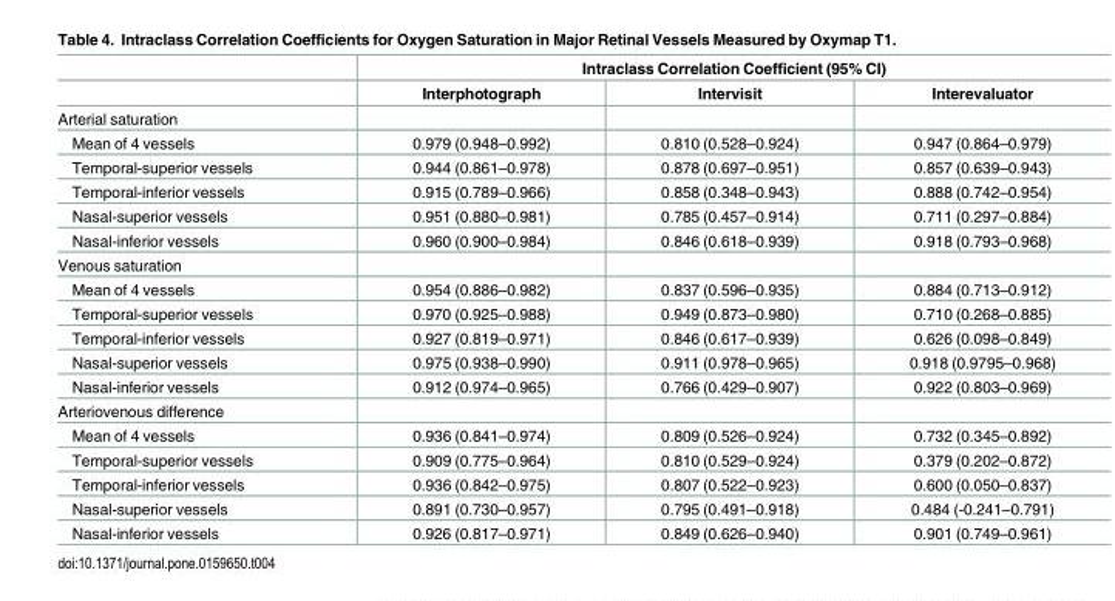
<table><thead><tr><td rowspan="2"></td><td colspan="3">Intraclass Correlation Coefficient (95% CI)</td></tr><tr><td>Interphotograph</td><td>Intervisit</td><td>Interevaluator</td></tr></thead><tbody><tr><td colspan="4">Arterial saturation</td></tr><tr><td>Mean of 4 vessels</td><td>0.979 (0.948–0.992)</td><td>0.810 (0.528–0.924)</td><td>0.947 (0.864–0.979)</td></tr><tr><td>Temporal-superior vessels</td><td>0.944 (0.861–0.978)</td><td>0.878 (0.697–0.951)</td><td>0.857 (0.639–0.943)</td></tr><tr><td>Temporal-inferior vessels</td><td>0.915 (0.789–0.966)</td><td>0.858 (0.348–0.943)</td><td>0.888 (0.742–0.954)</td></tr><tr><td>Nasal-superior vessels</td><td>0.951 (0.880–0.981)</td><td>0.785 (0.457–0.914)</td><td>0.711 (0.297–0.884)</td></tr><tr><td>Nasal-inferior vessels</td><td>0.960 (0.900–0.984)</td><td>0.846 (0.618–0.939)</td><td>0.918 (0.793–0.968)</td></tr><tr><td colspan="4">Venous saturation</td></tr><tr><td>Mean of 4 vessels</td><td>0.954 (0.886–0.982)</td><td>0.837 (0.596–0.935)</td><td>0.884 (0.713–0.912)</td></tr><tr><td>Temporal-superior vessels</td><td>0.970 (0.925–0.988)</td><td>0.949 (0.873–0.980)</td><td>0.710 (0.268–0.885)</td></tr><tr><td>Temporal-inferior vessels</td><td>0.927 (0.819–0.971)</td><td>0.846 (0.617–0.939)</td><td>0.626 (0.098–0.849)</td></tr><tr><td>Nasal-superior vessels</td><td>0.975 (0.938–0.990)</td><td>0.911 (0.978–0.965)</td><td>0.918 (0.9795–0.968)</td></tr><tr><td>Nasal-inferior vessels</td><td>0.912 (0.974–0.965)</td><td>0.766 (0.429–0.907)</td><td>0.922 (0.803–0.969)</td></tr><tr><td colspan="4">Arteriovenous difference</td></tr><tr><td>Mean of 4 vessels</td><td>0.936 (0.841–0.974)</td><td>0.809 (0.526–0.924)</td><td>0.732 (0.345–0.892)</td></tr><tr><td>Temporal-superior vessels</td><td>0.909 (0.775–0.964)</td><td>0.810 (0.529–0.924)</td><td>0.379 (0.202–0.872)</td></tr><tr><td>Temporal-inferior vessels</td><td>0.936 (0.842–0.975)</td><td>0.807 (0.522–0.923)</td><td>0.600 (0.050–0.837)</td></tr><tr><td>Nasal-superior vessels</td><td>0.891 (0.730–0.957)</td><td>0.795 (0.491–0.918)</td><td>0.484 (-0.241–0.791)</td></tr><tr><td>Nasal-inferior vessels</td><td>0.926 (0.817–0.971)</td><td>0.849 (0.626–0.940)</td><td>0.901 (0.749–0.961)</td></tr></tbody></table>